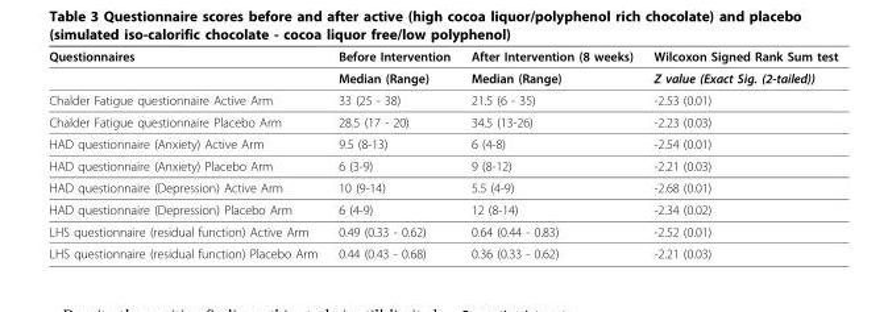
<table><thead><tr><td>Questionnaires</td><td>Before Intervention</td><td>After Intervention (8 weeks)</td><td>Wilcoxon Signed Rank Sum test</td></tr></thead><tbody><tr><td></td><td>Median (Range)</td><td>Median (Range)</td><td>Z value (Exact Sig. (2-tailed))</td></tr><tr><td>Chalder Fatigue questionnaire Active Arm</td><td>33 (25 - 38)</td><td>21.5 (6 - 35)</td><td>-2.53 (0.01)</td></tr><tr><td>Chalder Fatigue questionnaire Placebo Arm</td><td>28.5 (17 - 20)</td><td>34.5 (13-26)</td><td>-2.23 (0.03)</td></tr><tr><td>HAD questionnaire (Anxiety) Active Arm</td><td>9.5 (8-13)</td><td>6 (4-8)</td><td>-2.54 (0.01)</td></tr><tr><td>HAD questionnaire (Anxiety) Placebo Arm</td><td>6 (3-9)</td><td>9 (8-12)</td><td>-2.21 (0.03)</td></tr><tr><td>HAD questionnaire (Depression) Active Arm</td><td>10 (9-14)</td><td>5.5 (4-9)</td><td>-2.68 (0.01)</td></tr><tr><td>HAD questionnaire (Depression) Placebo Arm</td><td>6 (4-9)</td><td>12 (8-14)</td><td>-2.34 (0.02)</td></tr><tr><td>LHS questionnaire (residual function) Active Arm</td><td>0.49 (0.33 - 0.62)</td><td>0.64 (0.44 - 0.83)</td><td>-2.52 (0.01)</td></tr><tr><td>LHS questionnaire (residual function) Placebo Arm</td><td>0.44 (0.43 - 0.68)</td><td>0.36 (0.33 - 0.62)</td><td>-2.21 (0.03)</td></tr></tbody></table>